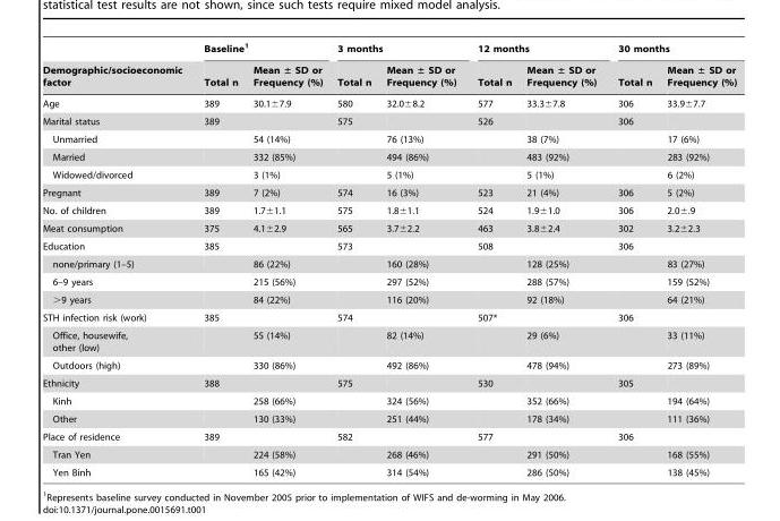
<table><thead><tr><td rowspan="2">Demographic/socioeconomic factor</td><td colspan="2">Baseline<sup>1</sup></td><td colspan="2">3 months</td><td colspan="2">12 months</td><td colspan="2">30 months</td></tr><tr><td>Total n</td><td>Mean ± SD or Frequency (%)</td><td>Total n</td><td>Mean ± SD or Frequency (%)</td><td>Total n</td><td>Mean ± SD or Frequency (%)</td><td>Total n</td><td>Mean ± SD or Frequency (%)</td></tr></thead><tbody><tr><td>Age</td><td>389</td><td>30.1±7.9</td><td>580</td><td>32.0±8.2</td><td>577</td><td>33.3±7.8</td><td>306</td><td>33.9±7.7</td></tr><tr><td>Marital status</td><td>389</td><td></td><td>575</td><td></td><td>526</td><td></td><td>306</td><td></td></tr><tr><td>Unmarried</td><td></td><td>54 (14%)</td><td></td><td>76 (13%)</td><td></td><td>38 (7%)</td><td></td><td>17 (6%)</td></tr><tr><td>Married</td><td></td><td>332 (85%)</td><td></td><td>494 (86%)</td><td></td><td>483 (92%)</td><td></td><td>283 (92%)</td></tr><tr><td>Widowed/divorced</td><td></td><td>3 (1%)</td><td></td><td>5 (1%)</td><td></td><td>5 (1%)</td><td></td><td>6 (2%)</td></tr><tr><td>Pregnant</td><td>389</td><td>7 (2%)</td><td>574</td><td>16 (3%)</td><td>523</td><td>21 (4%)</td><td>306</td><td>5 (2%)</td></tr><tr><td>No. of children</td><td>389</td><td>1.7±1.1</td><td>575</td><td>1.8±1.1</td><td>524</td><td>1.9±1.0</td><td>306</td><td>2.0±.9</td></tr><tr><td>Meat consumption</td><td>375</td><td>4.1±2.9</td><td>565</td><td>3.7±2.2</td><td>463</td><td>3.8±2.4</td><td>302</td><td>3.2±2.3</td></tr><tr><td>Education</td><td>385</td><td></td><td>573</td><td></td><td>508</td><td></td><td>306</td><td></td></tr><tr><td>none/primary (1–5)</td><td></td><td>86 (22%)</td><td></td><td>160 (28%)</td><td></td><td>128 (25%)</td><td></td><td>83 (27%)</td></tr><tr><td>6–9 years</td><td></td><td>215 (56%)</td><td></td><td>297 (52%)</td><td></td><td>288 (57%)</td><td></td><td>159 (52%)</td></tr><tr><td>&gt;9 years</td><td></td><td>84 (22%)</td><td></td><td>116 (20%)</td><td></td><td>92 (18%)</td><td></td><td>64 (21%)</td></tr><tr><td>STH infection risk (work)</td><td>385</td><td></td><td>574</td><td></td><td>507*</td><td></td><td>306</td><td></td></tr><tr><td>Office, housewife, other (low)</td><td></td><td>55 (14%)</td><td></td><td>82 (14%)</td><td></td><td>29 (6%)</td><td></td><td>33 (11%)</td></tr><tr><td>Outdoors (high)</td><td></td><td>330 (86%)</td><td></td><td>492 (86%)</td><td></td><td>478 (94%)</td><td></td><td>273 (89%)</td></tr><tr><td>Ethnicity</td><td>388</td><td></td><td>575</td><td></td><td>530</td><td></td><td>305</td><td></td></tr><tr><td>Kinh</td><td></td><td>258 (66%)</td><td></td><td>324 (56%)</td><td></td><td>352 (66%)</td><td></td><td>194 (64%)</td></tr><tr><td>Other</td><td></td><td>130 (33%)</td><td></td><td>251 (44%)</td><td></td><td>178 (34%)</td><td></td><td>111 (36%)</td></tr><tr><td>Place of residence</td><td>389</td><td></td><td>582</td><td></td><td>577</td><td></td><td>306</td><td></td></tr><tr><td>Tran Yen</td><td></td><td>224 (58%)</td><td></td><td>268 (46%)</td><td></td><td>291 (50%)</td><td></td><td>168 (55%)</td></tr><tr><td>Yen Binh</td><td></td><td>165 (42%)</td><td></td><td>314 (54%)</td><td></td><td>286 (50%)</td><td></td><td>138 (45%)</td></tr></tbody></table>